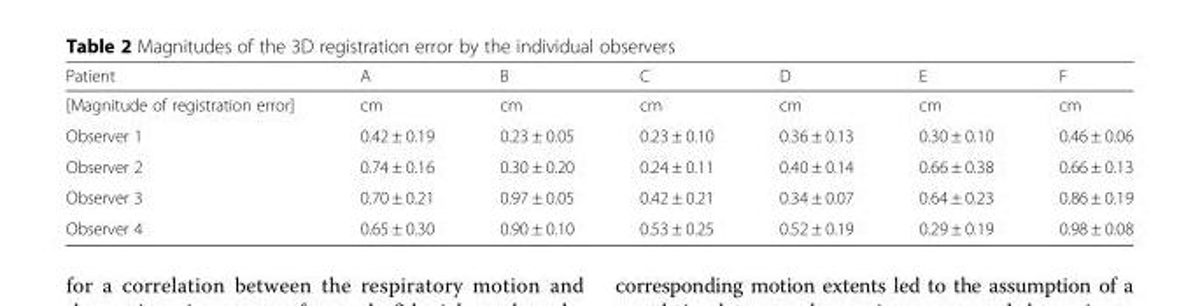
<table><thead><tr><td>Patient</td><td>A</td><td>B</td><td>C</td><td>D</td><td>E</td><td>F</td></tr></thead><tbody><tr><td>[Magnitude of registration error]</td><td>cm</td><td>cm</td><td>cm</td><td>cm</td><td>cm</td><td>cm</td></tr><tr><td>Observer 1</td><td>0.42 ± 0.19</td><td>0.23 ± 0.05</td><td>0.23 ± 0.10</td><td>0.36 ± 0.13</td><td>0.30 ± 0.10</td><td>0.46 ± 0.06</td></tr><tr><td>Observer 2</td><td>0.74 ± 0.16</td><td>0.30 ± 0.20</td><td>0.24 ± 0.11</td><td>0.40 ± 0.14</td><td>0.66 ± 0.38</td><td>0.66 ± 0.13</td></tr><tr><td>Observer 3</td><td>0.70 ± 0.21</td><td>0.97 ± 0.05</td><td>0.42 ± 0.21</td><td>0.34 ± 0.07</td><td>0.64 ± 0.23</td><td>0.86 ± 0.19</td></tr><tr><td>Observer 4</td><td>0.65 ± 0.30</td><td>0.90 ± 0.10</td><td>0.53 ± 0.25</td><td>0.52 ± 0.19</td><td>0.29 ± 0.19</td><td>0.98 ± 0.08</td></tr></tbody></table>